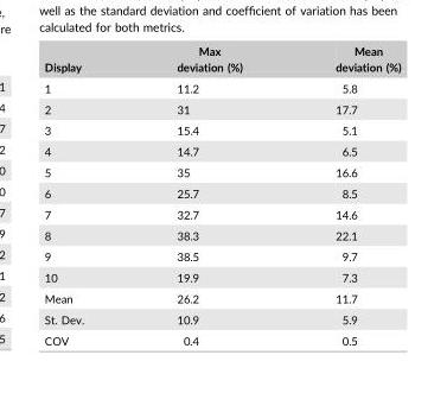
<table><thead><tr><td>Display</td><td>Max deviation (%)</td><td>Mean deviation (%)</td></tr></thead><tbody><tr><td>1</td><td>11.2</td><td>5.8</td></tr><tr><td>2</td><td>31</td><td>17.7</td></tr><tr><td>3</td><td>15.4</td><td>5.1</td></tr><tr><td>4</td><td>14.7</td><td>6.5</td></tr><tr><td>5</td><td>35</td><td>16.6</td></tr><tr><td>6</td><td>25.7</td><td>8.5</td></tr><tr><td>7</td><td>32.7</td><td>14.6</td></tr><tr><td>8</td><td>38.3</td><td>22.1</td></tr><tr><td>9</td><td>38.5</td><td>9.7</td></tr><tr><td>10</td><td>19.9</td><td>7.3</td></tr><tr><td>Mean</td><td>26.2</td><td>11.7</td></tr><tr><td>St. Dev.</td><td>10.9</td><td>5.9</td></tr><tr><td>COV</td><td>0.4</td><td>0.5</td></tr></tbody></table>